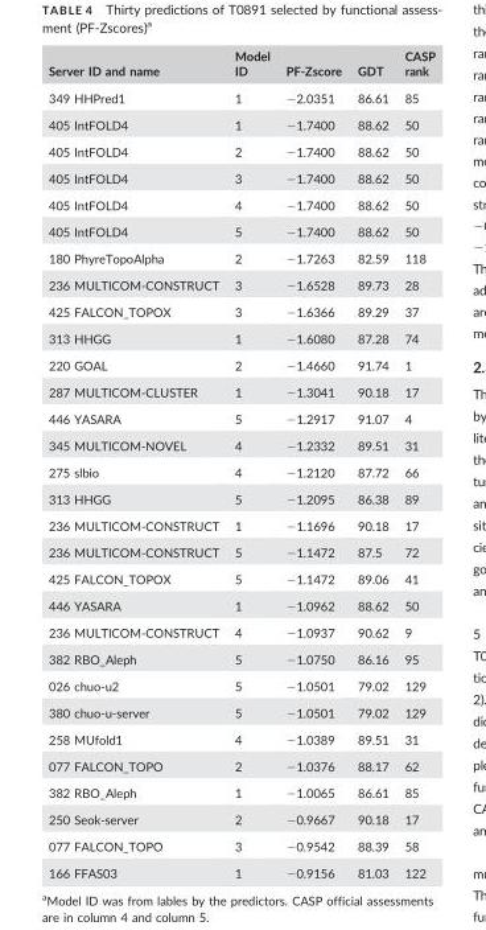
<table><thead><tr><td>Server ID and name</td><td>Model ID</td><td>PF-Zscore</td><td>GDT</td><td>CASP rank</td></tr></thead><tbody><tr><td>349 HHPred1</td><td>1</td><td>−2.0351</td><td>86.61</td><td>85</td></tr><tr><td>405 IntFOLD4</td><td>1</td><td>−1.7400</td><td>88.62</td><td>50</td></tr><tr><td>405 IntFOLD4</td><td>2</td><td>−1.7400</td><td>88.62</td><td>50</td></tr><tr><td>405 IntFOLD4</td><td>3</td><td>−1.7400</td><td>88.62</td><td>50</td></tr><tr><td>405 IntFOLD4</td><td>4</td><td>−1.7400</td><td>88.62</td><td>50</td></tr><tr><td>405 IntFOLD4</td><td>5</td><td>−1.7400</td><td>88.62</td><td>50</td></tr><tr><td>180 PhyreTopoAlpha</td><td>2</td><td>−1.7263</td><td>82.59</td><td>118</td></tr><tr><td>236 MULTICOM-CONSTRUCT</td><td>3</td><td>−1.6528</td><td>89.73</td><td>28</td></tr><tr><td>425 FALCON_TOPOX</td><td>3</td><td>−1.6366</td><td>89.29</td><td>37</td></tr><tr><td>313 HHGG</td><td>1</td><td>−1.6080</td><td>87.28</td><td>74</td></tr><tr><td>220 GOAL</td><td>2</td><td>−1.4660</td><td>91.74</td><td>1</td></tr><tr><td>287 MULTICOM-CLUSTER</td><td>1</td><td>−1.3041</td><td>90.18</td><td>17</td></tr><tr><td>446 YASARA</td><td>5</td><td>−1.2917</td><td>91.07</td><td>4</td></tr><tr><td>345 MULTICOM-NOVEL</td><td>4</td><td>−1.2332</td><td>89.51</td><td>31</td></tr><tr><td>275 slbio</td><td>4</td><td>−1.2120</td><td>87.72</td><td>66</td></tr><tr><td>313 HHGG</td><td>5</td><td>−1.2095</td><td>86.38</td><td>89</td></tr><tr><td>236 MULTICOM-CONSTRUCT</td><td>1</td><td>−1.1696</td><td>90.18</td><td>17</td></tr><tr><td>236 MULTICOM-CONSTRUCT</td><td>5</td><td>−1.1472</td><td>87.5</td><td>72</td></tr><tr><td>425 FALCON_TOPOX</td><td>5</td><td>−1.1472</td><td>89.06</td><td>41</td></tr><tr><td>446 YASARA</td><td>1</td><td>−1.0962</td><td>88.62</td><td>50</td></tr><tr><td>236 MULTICOM-CONSTRUCT</td><td>4</td><td>−1.0937</td><td>90.62</td><td>9</td></tr><tr><td>382 RBO_Aleph</td><td>5</td><td>−1.0750</td><td>86.16</td><td>95</td></tr><tr><td>026 chuo-u2</td><td>5</td><td>−1.0501</td><td>79.02</td><td>129</td></tr><tr><td>380 chuo-u-server</td><td>5</td><td>−1.0501</td><td>79.02</td><td>129</td></tr><tr><td>258 MUfold1</td><td>4</td><td>−1.0389</td><td>89.51</td><td>31</td></tr><tr><td>077 FALCON_TOPO</td><td>2</td><td>−1.0376</td><td>88.17</td><td>62</td></tr><tr><td>382 RBO_Aleph</td><td>1</td><td>−1.0065</td><td>86.61</td><td>85</td></tr><tr><td>250 Seok-server</td><td>2</td><td>−0.9667</td><td>90.18</td><td>17</td></tr><tr><td>077 FALCON_TOPO</td><td>3</td><td>−0.9542</td><td>88.39</td><td>58</td></tr><tr><td>166 FFAS03</td><td>1</td><td>−0.9156</td><td>81.03</td><td>122</td></tr></tbody></table>